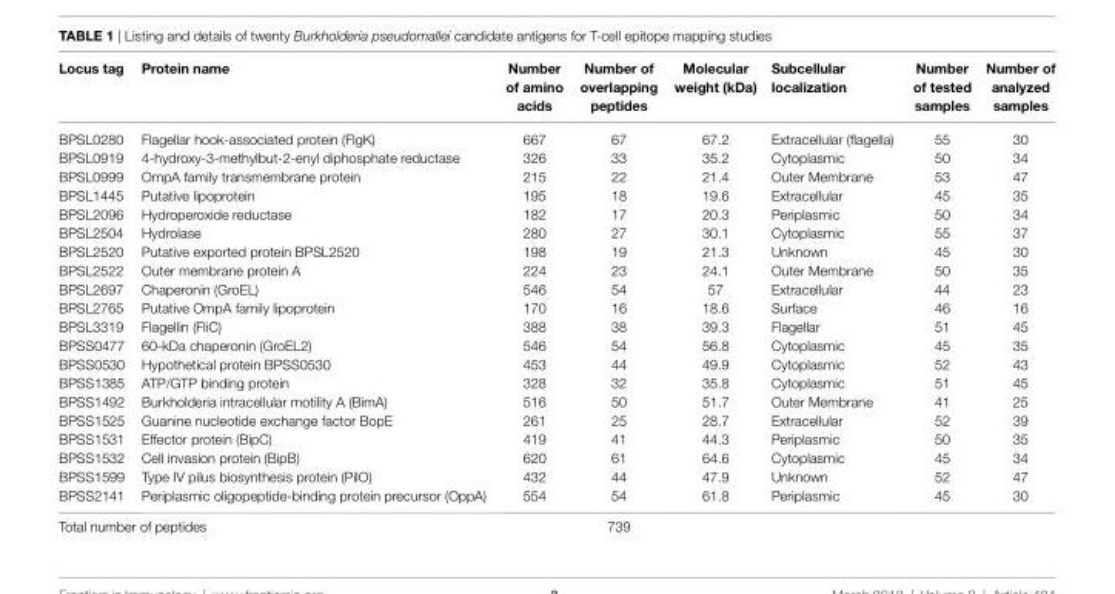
<table><thead><tr><td>locus tag</td><td>Protein name</td><td>number of amino acids</td><td>number of overlapping peptides</td><td>Molecular weight (kDa)</td><td>subcellular localization</td><td>number of tested samples</td><td>number of analyzed samples</td></tr></thead><tbody><tr><td>BPSL0280</td><td>Flagellar hook-associated protein (FlgK)</td><td>667</td><td>67</td><td>67.2</td><td>Extracellular (flagella)</td><td>55</td><td>30</td></tr><tr><td>BPSL0919</td><td>4-hydroxy-3-methylbut-2-enyl diphosphate reductase</td><td>326</td><td>33</td><td>35.2</td><td>Cytoplasmic</td><td>50</td><td>34</td></tr><tr><td>BPSL0999</td><td>OmpA family transmembrane protein</td><td>215</td><td>22</td><td>21.4</td><td>Outer Membrane</td><td>53</td><td>47</td></tr><tr><td>BPSL1445</td><td>Putative lipoprotein</td><td>195</td><td>18</td><td>19.6</td><td>Extracellular</td><td>45</td><td>35</td></tr><tr><td>BPSL2096</td><td>Hydroperoxide reductase</td><td>182</td><td>17</td><td>20.3</td><td>Periplasmic</td><td>50</td><td>34</td></tr><tr><td>BPSL2504</td><td>Hydrolase</td><td>280</td><td>27</td><td>30.1</td><td>Cytoplasmic</td><td>55</td><td>37</td></tr><tr><td>BPSL2520</td><td>Putative exported protein BPSL2520</td><td>198</td><td>19</td><td>21.3</td><td>Unknown</td><td>45</td><td>30</td></tr><tr><td>BPSL2522</td><td>Outer membrane protein A</td><td>224</td><td>23</td><td>24.1</td><td>Outer Membrane</td><td>50</td><td>35</td></tr><tr><td>BPSL2697</td><td>Chaperonin (GroEL)</td><td>546</td><td>54</td><td>57</td><td>Extracellular</td><td>44</td><td>23</td></tr><tr><td>BPSL2765</td><td>Putative OmpA family lipoprotein</td><td>170</td><td>16</td><td>18.6</td><td>Surface</td><td>46</td><td>16</td></tr><tr><td>BPSL3319</td><td>Flagellin (FliC)</td><td>388</td><td>38</td><td>39.3</td><td>Flagellar</td><td>51</td><td>45</td></tr><tr><td>BPSS0477</td><td>60-kDa chaperonin (GroEL2)</td><td>546</td><td>54</td><td>56.8</td><td>Cytoplasmic</td><td>45</td><td>35</td></tr><tr><td>BPSS0530</td><td>Hypothetical protein BPSS0530</td><td>453</td><td>44</td><td>49.9</td><td>Cytoplasmic</td><td>52</td><td>43</td></tr><tr><td>BPSS1385</td><td>ATP/GTP binding protein</td><td>328</td><td>32</td><td>35.8</td><td>Cytoplasmic</td><td>51</td><td>45</td></tr><tr><td>BPSS1492</td><td>Burkholderia intracellular motility A (BimA)</td><td>516</td><td>50</td><td>51.7</td><td>Outer Membrane</td><td>41</td><td>25</td></tr><tr><td>BPSS1525</td><td>Guanine nucleotide exchange factor BopE</td><td>261</td><td>25</td><td>28.7</td><td>Extracellular</td><td>52</td><td>39</td></tr><tr><td>BPSS1531</td><td>Effector protein (BipC)</td><td>419</td><td>41</td><td>44.3</td><td>Periplasmic</td><td>50</td><td>35</td></tr><tr><td>BPSS1532</td><td>Cell invasion protein (BipB)</td><td>620</td><td>61</td><td>64.6</td><td>Cytoplasmic</td><td>45</td><td>34</td></tr><tr><td>BPSS1599</td><td>Type IV pilus biosynthesis protein (PilO)</td><td>432</td><td>44</td><td>47.9</td><td>Unknown</td><td>52</td><td>47</td></tr><tr><td>BPSS2141</td><td>Periplasmic oligopeptide-binding protein precursor (OppA)</td><td>554</td><td>54</td><td>61.8</td><td>Periplasmic</td><td>45</td><td>30</td></tr><tr><td colspan="2">Total number of peptides</td><td></td><td>739</td><td></td><td></td><td></td><td></td></tr></tbody></table>